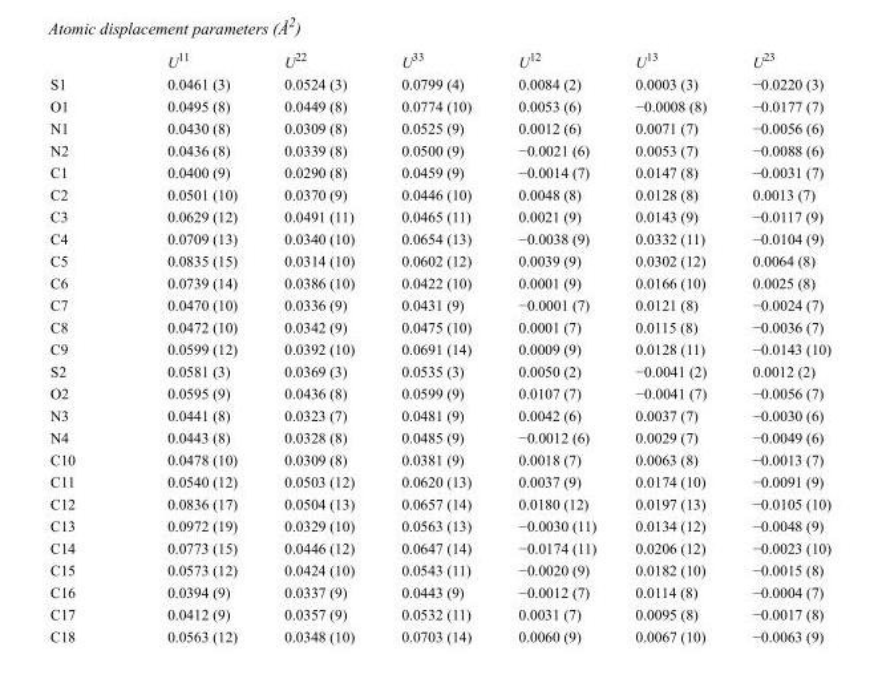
<table><thead><tr><td></td><td>U<sup>11</sup></td><td>U<sup>22</sup></td><td>U<sup>33</sup></td><td>U<sup>12</sup></td><td>U<sup>13</sup></td><td>U<sup>23</sup></td></tr></thead><tbody><tr><td>S1</td><td>0.0461 (3)</td><td>0.0524 (3)</td><td>0.0799 (4)</td><td>0.0084 (2)</td><td>0.0003 (3)</td><td>−0.0220 (3)</td></tr><tr><td>O1</td><td>0.0495 (8)</td><td>0.0449 (8)</td><td>0.0774 (10)</td><td>0.0053 (6)</td><td>−0.0008 (8)</td><td>−0.0177 (7)</td></tr><tr><td>N1</td><td>0.0430 (8)</td><td>0.0309 (8)</td><td>0.0525 (9)</td><td>0.0012 (6)</td><td>0.0071 (7)</td><td>−0.0056 (6)</td></tr><tr><td>N2</td><td>0.0436 (8)</td><td>0.0339 (8)</td><td>0.0500 (9)</td><td>−0.0021 (6)</td><td>0.0053 (7)</td><td>−0.0088 (6)</td></tr><tr><td>C1</td><td>0.0400 (9)</td><td>0.0290 (8)</td><td>0.0459 (9)</td><td>−0.0014 (7)</td><td>0.0147 (8)</td><td>−0.0031 (7)</td></tr><tr><td>C2</td><td>0.0501 (10)</td><td>0.0370 (9)</td><td>0.0446 (10)</td><td>0.0048 (8)</td><td>0.0128 (8)</td><td>0.0013 (7)</td></tr><tr><td>C3</td><td>0.0629 (12)</td><td>0.0491 (11)</td><td>0.0465 (11)</td><td>0.0021 (9)</td><td>0.0143 (9)</td><td>−0.0117 (9)</td></tr><tr><td>C4</td><td>0.0709 (13)</td><td>0.0340 (10)</td><td>0.0654 (13)</td><td>−0.0038 (9)</td><td>0.0332 (11)</td><td>−0.0104 (9)</td></tr><tr><td>C5</td><td>0.0835 (15)</td><td>0.0314 (10)</td><td>0.0602 (12)</td><td>0.0039 (9)</td><td>0.0302 (12)</td><td>0.0064 (8)</td></tr><tr><td>C6</td><td>0.0739 (14)</td><td>0.0386 (10)</td><td>0.0422 (10)</td><td>0.0001 (9)</td><td>0.0166 (10)</td><td>0.0025 (8)</td></tr><tr><td>C7</td><td>0.0470 (10)</td><td>0.0336 (9)</td><td>0.0431 (9)</td><td>−0.0001 (7)</td><td>0.0121 (8)</td><td>−0.0024 (7)</td></tr><tr><td>C8</td><td>0.0472 (10)</td><td>0.0342 (9)</td><td>0.0475 (10)</td><td>0.0001 (7)</td><td>0.0115 (8)</td><td>−0.0036 (7)</td></tr><tr><td>C9</td><td>0.0599 (12)</td><td>0.0392 (10)</td><td>0.0691 (14)</td><td>0.0009 (9)</td><td>0.0128 (11)</td><td>−0.0143 (10)</td></tr><tr><td>S2</td><td>0.0581 (3)</td><td>0.0369 (3)</td><td>0.0535 (3)</td><td>0.0050 (2)</td><td>−0.0041 (2)</td><td>0.0012 (2)</td></tr><tr><td>O2</td><td>0.0595 (9)</td><td>0.0436 (8)</td><td>0.0599 (9)</td><td>0.0107 (7)</td><td>−0.0041 (7)</td><td>−0.0056 (7)</td></tr><tr><td>N3</td><td>0.0441 (8)</td><td>0.0323 (7)</td><td>0.0481 (9)</td><td>0.0042 (6)</td><td>0.0037 (7)</td><td>−0.0030 (6)</td></tr><tr><td>N4</td><td>0.0443 (8)</td><td>0.0328 (8)</td><td>0.0485 (9)</td><td>−0.0012 (6)</td><td>0.0029 (7)</td><td>−0.0049 (6)</td></tr><tr><td>C10</td><td>0.0478 (10)</td><td>0.0309 (8)</td><td>0.0381 (9)</td><td>0.0018 (7)</td><td>0.0063 (8)</td><td>−0.0013 (7)</td></tr><tr><td>C11</td><td>0.0540 (12)</td><td>0.0503 (12)</td><td>0.0620 (13)</td><td>0.0037 (9)</td><td>0.0174 (10)</td><td>−0.0091 (9)</td></tr><tr><td>C12</td><td>0.0836 (17)</td><td>0.0504 (13)</td><td>0.0657 (14)</td><td>0.0180 (12)</td><td>0.0197 (13)</td><td>−0.0105 (10)</td></tr><tr><td>C13</td><td>0.0972 (19)</td><td>0.0329 (10)</td><td>0.0563 (13)</td><td>−0.0030 (11)</td><td>0.0134 (12)</td><td>−0.0048 (9)</td></tr><tr><td>C14</td><td>0.0773 (15)</td><td>0.0446 (12)</td><td>0.0647 (14)</td><td>−0.0174 (11)</td><td>0.0206 (12)</td><td>−0.0023 (10)</td></tr><tr><td>C15</td><td>0.0573 (12)</td><td>0.0424 (10)</td><td>0.0543 (11)</td><td>−0.0020 (9)</td><td>0.0182 (10)</td><td>−0.0015 (8)</td></tr><tr><td>C16</td><td>0.0394 (9)</td><td>0.0337 (9)</td><td>0.0443 (9)</td><td>−0.0012 (7)</td><td>0.0114 (8)</td><td>−0.0004 (7)</td></tr><tr><td>C17</td><td>0.0412 (9)</td><td>0.0357 (9)</td><td>0.0532 (11)</td><td>0.0031 (7)</td><td>0.0095 (8)</td><td>−0.0017 (8)</td></tr><tr><td>C18</td><td>0.0563 (12)</td><td>0.0348 (10)</td><td>0.0703 (14)</td><td>0.0060 (9)</td><td>0.0067 (10)</td><td>−0.0063 (9)</td></tr></tbody></table>